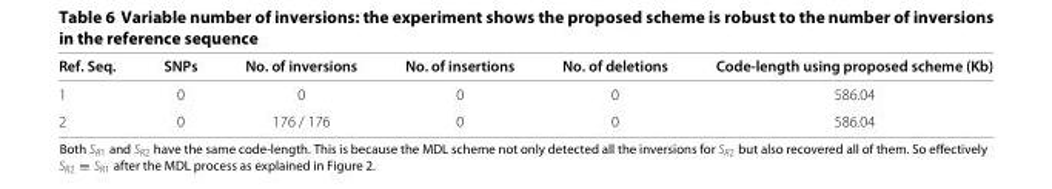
<table><thead><tr><td>Ref. Seq.</td><td>SNPs</td><td>No. of inversions</td><td>No. of insertions</td><td>No. of deletions</td><td>Code-length using proposed scheme (Kb)</td></tr></thead><tbody><tr><td>1</td><td>0</td><td>0</td><td>0</td><td>0</td><td>586.04</td></tr><tr><td>2</td><td>0</td><td>176 / 176</td><td>0</td><td>0</td><td>586.04</td></tr></tbody></table>